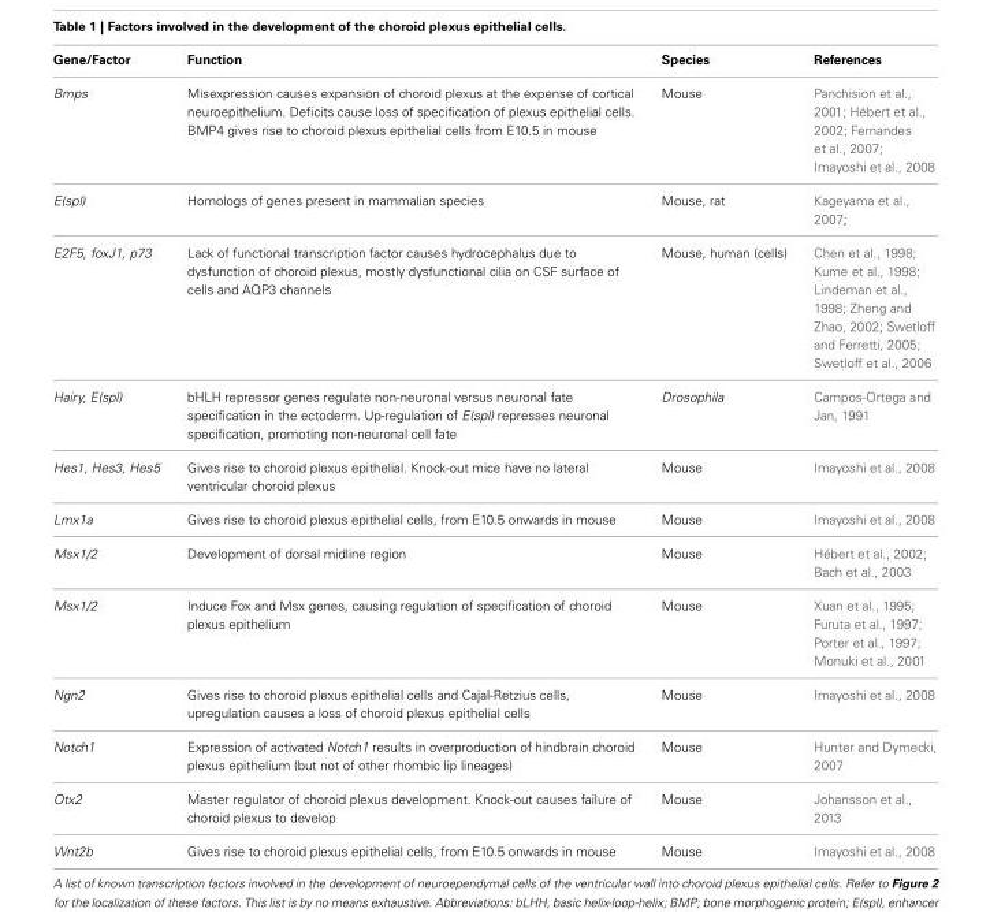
<table><thead><tr><td>Gene/Factor</td><td>Function</td><td>Species</td><td>References</td></tr></thead><tbody><tr><td>Bmps</td><td>Misexpression causes expansion of choroid plexus at the expense of cortical neuroepithelium. Deficits cause loss of specification of plexus epithelial cells. BMP4 gives rise to choroid plexus epithelial cells from E10.5 in mouse</td><td>Mouse</td><td>Panchision et al., 2001; Hébert et al., 2002; Fernandes et al., 2007; Imayoshi et al., 2008</td></tr><tr><td>E(spl)</td><td>Homologs of genes present in mammalian species</td><td>Mouse, rat</td><td>Kageyama et al., 2007;</td></tr><tr><td>E2F5, foxJ1, p73</td><td>Lack of functional transcription factor causes hydrocephalus due to dysfunction of choroid plexus, mostly dysfunctional cilia on CSF surface of cells and AQP3 channels</td><td>Mouse, human (cells)</td><td>Chen et al., 1998; Kume et al., 1998; Lindeman et al., 1998; Zheng and Zhao, 2002; Swetloff and Ferretti, 2005; Swetloff et al., 2006</td></tr><tr><td>Hairy, E(spl)</td><td>bHLH repressor genes regulate non-neuronal versus neuronal fate specification in the ectoderm. Up-regulation of E(spl) represses neuronal specification, promoting non-neuronal cell fate</td><td>Drosophila</td><td>Campos-Ortega and Jan, 1991</td></tr><tr><td>Hes1, Hes3, Hes5</td><td>Gives rise to choroid plexus epithelial. Knock-out mice have no lateral ventricular choroid plexus</td><td>Mouse</td><td>Imayoshi et al., 2008</td></tr><tr><td>Lmx1a</td><td>Gives rise to choroid plexus epithelial cells, from E10.5 onwards in mouse</td><td>Mouse</td><td>Imayoshi et al., 2008</td></tr><tr><td>Msx1/2</td><td>Development of dorsal midline region</td><td>Mouse</td><td>Hébert et al., 2002; Bach et al., 2003</td></tr><tr><td>Msx1/2</td><td>Induce Fox and Msx genes, causing regulation of specification of choroid plexus epithelium</td><td>Mouse</td><td>Xuan et al., 1995; Furuta et al., 1997; Porter et al., 1997; Monuki et al., 2001</td></tr><tr><td>Ngn2</td><td>Gives rise to choroid plexus epithelial cells and Cajal-Retzius cells, upregulation causes a loss of choroid plexus epithelial cells</td><td>Mouse</td><td>Imayoshi et al., 2008</td></tr><tr><td>Notch1</td><td>Expression of activated Notch1 results in overproduction of hindbrain choroid plexus epithelium (but not of other rhombic lip lineages)</td><td>Mouse</td><td>Hunter and Dymecki, 2007</td></tr><tr><td>Otx2</td><td>Master regulator of choroid plexus development. Knock-out causes failure of choroid plexus to develop</td><td>Mouse</td><td>Johansson et al., 2013</td></tr><tr><td>Wnt2b</td><td>Gives rise to choroid plexus epithelial cells, from E10.5 onwards in mouse</td><td>Mouse</td><td>Imayoshi et al., 2008</td></tr></tbody></table>